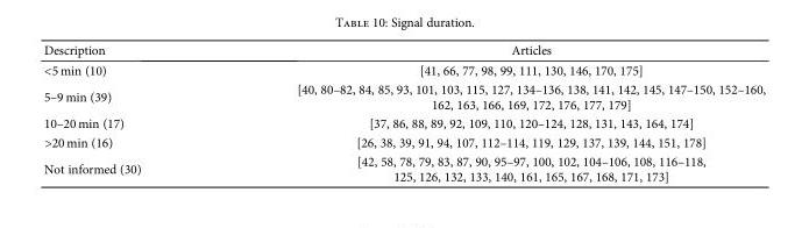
<table><thead><tr><td>Description</td><td>Articles</td></tr></thead><tbody><tr><td>&lt;5 min (10)</td><td>[41, 66, 77, 98, 99, 111, 130, 146, 170, 175]</td></tr><tr><td>5–9 min (39)</td><td>[40, 80–82, 84, 85, 93, 101, 103, 115, 127, 134–136, 138, 141, 142, 145, 147–150, 152–160, 162, 163, 166, 169, 172, 176, 177, 179]</td></tr><tr><td>10–20 min (17)</td><td>[37, 86, 88, 89, 92, 109, 110, 120–124, 128, 131, 143, 164, 174]</td></tr><tr><td>&gt;20 min (16)</td><td>[26, 38, 39, 91, 94, 107, 112–114, 119, 129, 137, 139, 144, 151, 178]</td></tr><tr><td>Not informed (30)</td><td>[42, 58, 78, 79, 83, 87, 90, 95–97, 100, 102, 104–106, 108, 116–118, 125, 126, 132, 133, 140, 161, 165, 167, 168, 171, 173]</td></tr></tbody></table>